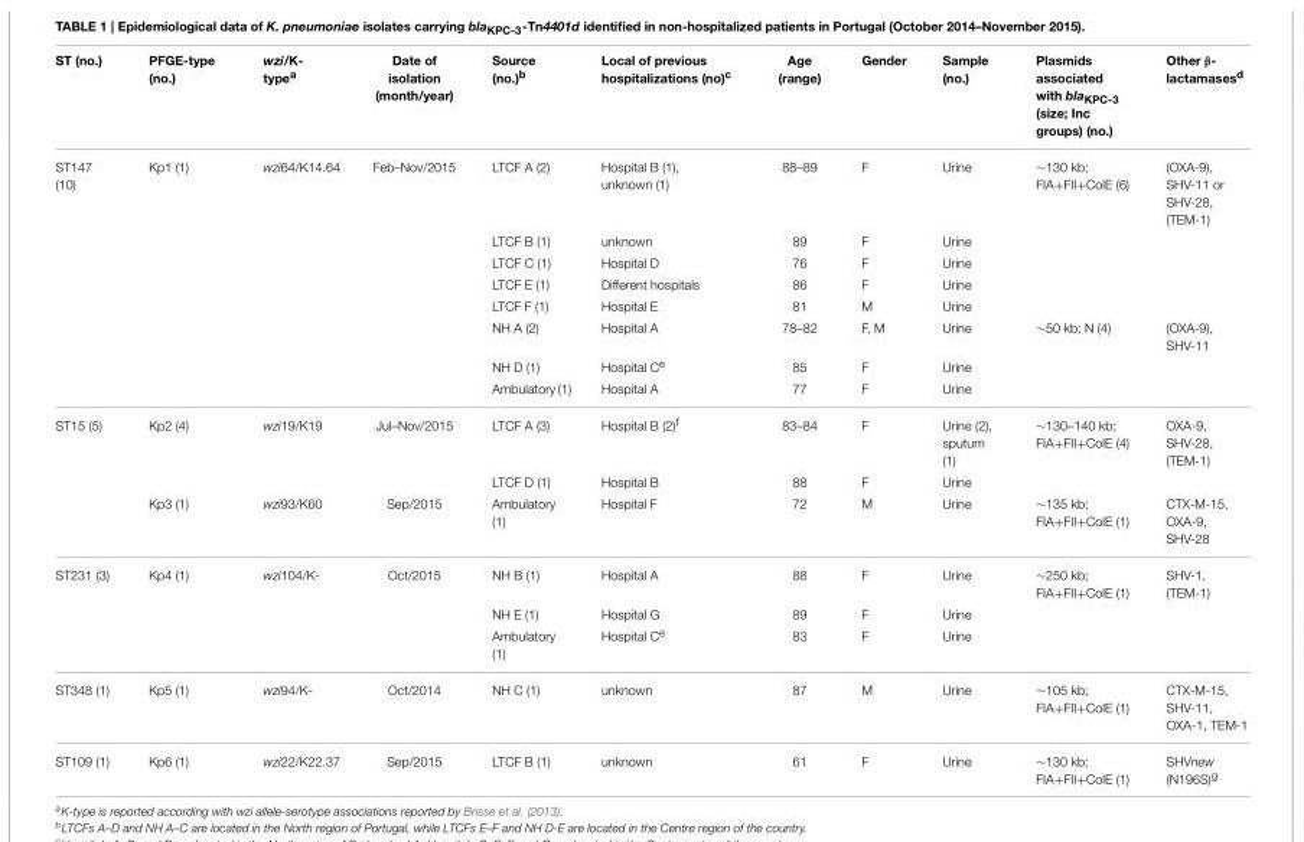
<table><thead><tr><td>ST (no.)</td><td>PFGE-type (no.)</td><td>wzi/K- type<sup>a</sup></td><td>Date of isolation (month/year)</td><td>Source (no.)<sup>b</sup></td><td>Local of previous hospitalizations (no)<sup>c</sup></td><td>Age (range)</td><td>Gender</td><td>Sample (no.)</td><td>Plasmids associated with blaKPC-3 (size; Inc groups) (no.)</td><td>Other β- lactamases<sup>d</sup></td></tr></thead><tbody><tr><td rowspan="8">ST147 (10)</td><td>Kp1 (1)</td><td>wzi64/K14.64</td><td>Feb–Nov/2015</td><td>LTCF A (2)</td><td>Hospital B (1), unknown (1)</td><td>88–89</td><td>F</td><td>Urine</td><td>∼130 kb; FIA+FII+ColE (6)</td><td>(OXA-9), SHV-11 or SHV-28, (TEM-1)</td></tr><tr><td></td><td></td><td></td><td>LTCF B (1)</td><td>unknown</td><td>89</td><td>F</td><td>Urine</td><td></td><td></td></tr><tr><td></td><td></td><td></td><td>LTCF C (1)</td><td>Hospital D</td><td>76</td><td>F</td><td>Urine</td><td></td><td></td></tr><tr><td></td><td></td><td></td><td>LTCF E (1)</td><td>Different hospitals</td><td>86</td><td>F</td><td>Urine</td><td></td><td></td></tr><tr><td></td><td></td><td></td><td>LTCF F (1)</td><td>Hospital E</td><td>81</td><td>M</td><td>Urine</td><td></td><td></td></tr><tr><td></td><td></td><td></td><td>NH A (2)</td><td>Hospital A</td><td>78–82</td><td>F, M</td><td>Urine</td><td>∼50 kb; N (4)</td><td>(OXA-9), SHV-11</td></tr><tr><td></td><td></td><td></td><td>NH D (1)</td><td>Hospital C<sup>e</sup></td><td>85</td><td>F</td><td>Urine</td><td></td><td></td></tr><tr><td></td><td></td><td></td><td>Ambulatory (1)</td><td>Hospital A</td><td>77</td><td>F</td><td>Urine</td><td></td><td></td></tr><tr><td rowspan="3">ST15 (5)</td><td>Kp2 (4)</td><td>wzi19/K19</td><td>Jul–Nov/2015</td><td>LTCF A (3)</td><td>Hospital B (2)<sup>f</sup></td><td>83–84</td><td>F</td><td>Urine (2), sputum (1)</td><td>∼130–140 kb; FIA+FII+ColE (4)</td><td>OXA-9, SHV-28, (TEM-1)</td></tr><tr><td></td><td></td><td></td><td>LTCF D (1)</td><td>Hospital B</td><td>88</td><td>F</td><td>Urine</td><td></td><td></td></tr><tr><td>Kp3 (1)</td><td>wzi93/K60</td><td>Sep/2015</td><td>Ambulatory (1)</td><td>Hospital F</td><td>72</td><td>M</td><td>Urine</td><td>∼135 kb; FIA+FII+ColE (1)</td><td>CTX-M-15, OXA-9, SHV-28</td></tr><tr><td rowspan="3">ST231 (3)</td><td>Kp4 (1)</td><td>wzi104/K-</td><td>Oct/2015</td><td>NH B (1)</td><td>Hospital A</td><td>88</td><td>F</td><td>Urine</td><td>∼250 kb; FIA+FII+ColE (1)</td><td>SHV-1, (TEM-1)</td></tr><tr><td></td><td></td><td></td><td>NH E (1)</td><td>Hospital G</td><td>89</td><td>F</td><td>Urine</td><td></td><td></td></tr><tr><td></td><td></td><td></td><td>Ambulatory (1)</td><td>Hospital C<sup>e</sup></td><td>83</td><td>F</td><td>Urine</td><td></td><td></td></tr><tr><td>ST348 (1)</td><td>Kp5 (1)</td><td>wzi94/K-</td><td>Oct/2014</td><td>NH C (1)</td><td>unknown</td><td>87</td><td>M</td><td>Urine</td><td>∼105 kb; FIA+FII+ColE (1)</td><td>CTX-M-15, SHV-11, OXA-1, TEM-1</td></tr><tr><td>ST109 (1)</td><td>Kp6 (1)</td><td>wzi22/K22.37</td><td>Sep/2015</td><td>LTCF B (1)</td><td>unknown</td><td>61</td><td>F</td><td>Urine</td><td>∼130 kb; FIA+FII+ColE (1)</td><td>SHVnew (N196S)<sup>g</sup></td></tr></tbody></table>